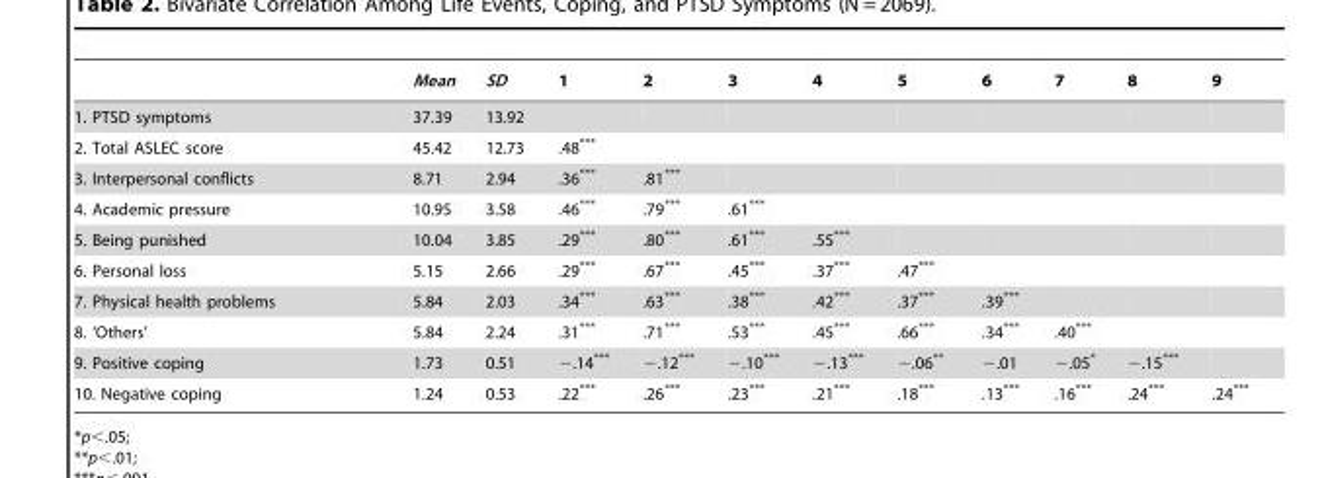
<table><thead><tr><td></td><td>Mean</td><td>SD</td><td>1</td><td>2</td><td>3</td><td>4</td><td>5</td><td>6</td><td>7</td><td>8</td><td>9</td></tr></thead><tbody><tr><td>1. PTSD symptoms</td><td>37.39</td><td>13.92</td><td></td><td></td><td></td><td></td><td></td><td></td><td></td><td></td><td></td></tr><tr><td>2. Total ASLEC score</td><td>45.42</td><td>12.73</td><td>.48***</td><td></td><td></td><td></td><td></td><td></td><td></td><td></td><td></td></tr><tr><td>3. Interpersonal conflicts</td><td>8.71</td><td>2.94</td><td>.36***</td><td>.81***</td><td></td><td></td><td></td><td></td><td></td><td></td><td></td></tr><tr><td>4. Academic pressure</td><td>10.95</td><td>3.58</td><td>.46***</td><td>.79***</td><td>.61***</td><td></td><td></td><td></td><td></td><td></td><td></td></tr><tr><td>5. Being punished</td><td>10.04</td><td>3.85</td><td>.29***</td><td>.80***</td><td>.61***</td><td>.55***</td><td></td><td></td><td></td><td></td><td></td></tr><tr><td>6. Personal loss</td><td>5.15</td><td>2.66</td><td>.29***</td><td>.67***</td><td>.45***</td><td>.37***</td><td>.47***</td><td></td><td></td><td></td><td></td></tr><tr><td>7. Physical health problems</td><td>5.84</td><td>2.03</td><td>.34***</td><td>.63***</td><td>.38***</td><td>.42***</td><td>.37***</td><td>.39***</td><td></td><td></td><td></td></tr><tr><td>8. ‘Others’</td><td>5.84</td><td>2.24</td><td>.31***</td><td>.71***</td><td>.53***</td><td>.45***</td><td>.66***</td><td>.34***</td><td>.40***</td><td></td><td></td></tr><tr><td>9. Positive coping</td><td>1.73</td><td>0.51</td><td>−.14***</td><td>−.12***</td><td>−.10***</td><td>−.13***</td><td>−.06**</td><td>−.01</td><td>−.05*</td><td>−.15***</td><td></td></tr><tr><td>10. Negative coping</td><td>1.24</td><td>0.53</td><td>.22***</td><td>.26***</td><td>.23***</td><td>.21***</td><td>.18***</td><td>.13***</td><td>.16***</td><td>.24***</td><td>.24***</td></tr></tbody></table>